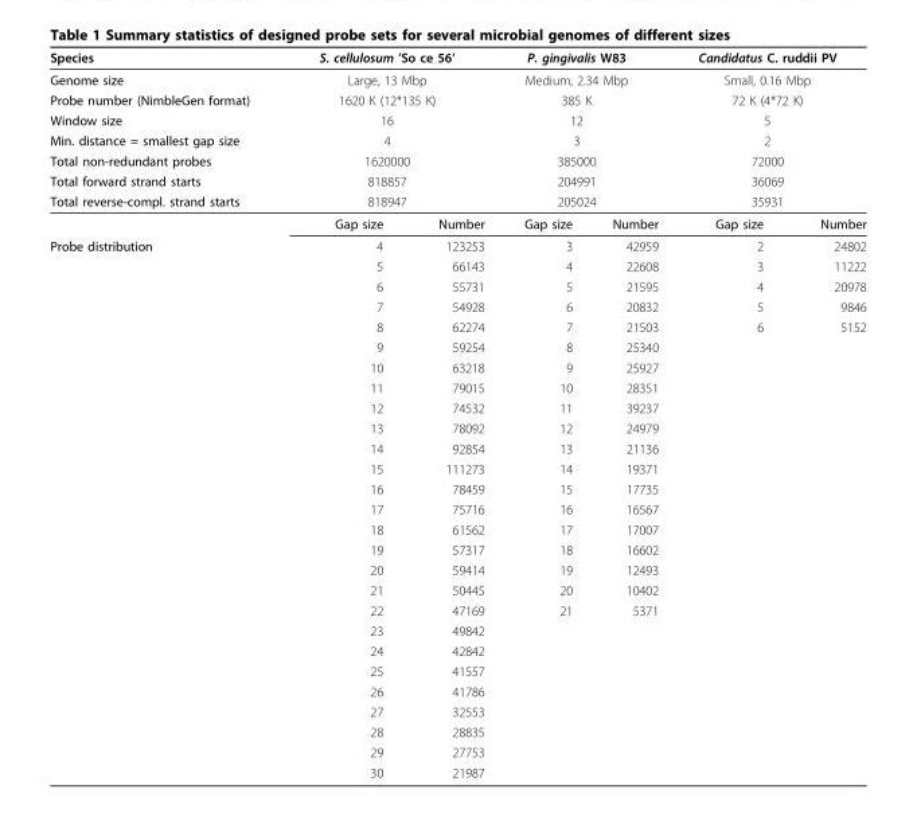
<table><thead><tr><td>Species</td><td colspan="2">S. cellulosum ’So ce 56’</td><td colspan="2">P. gingivalis W83</td><td colspan="2">Candidatus C. ruddii PV</td></tr></thead><tbody><tr><td>Genome size</td><td colspan="2">Large, 13 Mbp</td><td colspan="2">Medium, 2.34 Mbp</td><td colspan="2">Small, 0.16 Mbp</td></tr><tr><td>Probe number (NimbleGen format)</td><td colspan="2">1620 K (12*135 K)</td><td colspan="2">385 K</td><td colspan="2">72 K (4*72 K)</td></tr><tr><td>Window size</td><td colspan="2">16</td><td colspan="2">12</td><td colspan="2">5</td></tr><tr><td>Min. distance = smallest gap size</td><td colspan="2">4</td><td colspan="2">3</td><td colspan="2">2</td></tr><tr><td>Total non-redundant probes</td><td colspan="2">1620000</td><td colspan="2">385000</td><td colspan="2">72000</td></tr><tr><td>Total forward strand starts</td><td colspan="2">818857</td><td colspan="2">204991</td><td colspan="2">36069</td></tr><tr><td rowspan="2">Total reverse-compl. strand starts</td><td colspan="2">818947</td><td colspan="2">205024</td><td colspan="2">35931</td></tr><tr><td>Gap size</td><td>Number</td><td>Gap size</td><td>Number</td><td>Gap size</td><td>Number</td></tr><tr><td rowspan="27">Probe distribution</td><td>4</td><td>123253</td><td>3</td><td>42959</td><td>2</td><td>24802</td></tr><tr><td>5</td><td>66143</td><td>4</td><td>22608</td><td>3</td><td>11222</td></tr><tr><td>6</td><td>55731</td><td>5</td><td>21595</td><td>4</td><td>20978</td></tr><tr><td>7</td><td>54928</td><td>6</td><td>20832</td><td>5</td><td>9846</td></tr><tr><td>8</td><td>62274</td><td>7</td><td>21503</td><td>6</td><td>5152</td></tr><tr><td>9</td><td>59254</td><td>8</td><td>25340</td><td></td><td></td></tr><tr><td>10</td><td>63218</td><td>9</td><td>25927</td><td></td><td></td></tr><tr><td>11</td><td>79015</td><td>10</td><td>28351</td><td></td><td></td></tr><tr><td>12</td><td>74532</td><td>11</td><td>39237</td><td></td><td></td></tr><tr><td>13</td><td>78092</td><td>12</td><td>24979</td><td></td><td></td></tr><tr><td>14</td><td>92854</td><td>13</td><td>21136</td><td></td><td></td></tr><tr><td>15</td><td>111273</td><td>14</td><td>19371</td><td></td><td></td></tr><tr><td>16</td><td>78459</td><td>15</td><td>17735</td><td></td><td></td></tr><tr><td>17</td><td>75716</td><td>16</td><td>16567</td><td></td><td></td></tr><tr><td>18</td><td>61562</td><td>17</td><td>17007</td><td></td><td></td></tr><tr><td>19</td><td>57317</td><td>18</td><td>16602</td><td></td><td></td></tr><tr><td>20</td><td>59414</td><td>19</td><td>12493</td><td></td><td></td></tr><tr><td>21</td><td>50445</td><td>20</td><td>10402</td><td></td><td></td></tr><tr><td>22</td><td>47169</td><td>21</td><td>5371</td><td></td><td></td></tr><tr><td>23</td><td>49842</td><td></td><td></td><td></td><td></td></tr><tr><td>24</td><td>42842</td><td></td><td></td><td></td><td></td></tr><tr><td>25</td><td>41557</td><td></td><td></td><td></td><td></td></tr><tr><td>26</td><td>41786</td><td></td><td></td><td></td><td></td></tr><tr><td>27</td><td>32553</td><td></td><td></td><td></td><td></td></tr><tr><td>28</td><td>28835</td><td></td><td></td><td></td><td></td></tr><tr><td>29</td><td>27753</td><td></td><td></td><td></td><td></td></tr><tr><td>30</td><td>21987</td><td></td><td></td><td></td><td></td></tr></tbody></table>